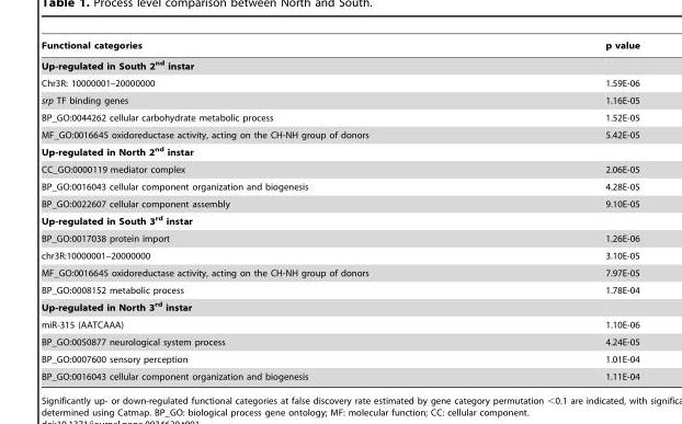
<table><thead><tr><td>Functional categories</td><td>p value</td></tr></thead><tbody><tr><td colspan="2">Up-regulated in South 2<sup>nd</sup> instar</td></tr><tr><td>Chr3R: 10000001–20000000</td><td>1.59E-06</td></tr><tr><td>srp TF binding genes</td><td>1.16E-05</td></tr><tr><td>BP_GO:0044262 cellular carbohydrate metabolic process</td><td>1.52E-05</td></tr><tr><td>MF_GO:0016645 oxidoreductase activity, acting on the CH-NH group of donors</td><td>5.42E-05</td></tr><tr><td colspan="2">Up-regulated in North 2<sup>nd</sup> instar</td></tr><tr><td>CC_GO:0000119 mediator complex</td><td>2.06E-05</td></tr><tr><td>BP_GO:0016043 cellular component organization and biogenesis</td><td>4.28E-05</td></tr><tr><td>BP_GO:0022607 cellular component assembly</td><td>9.10E-05</td></tr><tr><td colspan="2">Up-regulated in South 3<sup>rd</sup> instar</td></tr><tr><td>BP_GO:0017038 protein import</td><td>1.26E-06</td></tr><tr><td>chr3R:10000001–20000000</td><td>3.10E-05</td></tr><tr><td>MF_GO:0016645 oxidoreductase activity, acting on the CH-NH group of donors</td><td>7.97E-05</td></tr><tr><td>BP_GO:0008152 metabolic process</td><td>1.78E-04</td></tr><tr><td colspan="2">Up-regulated in North 3<sup>rd</sup> instar</td></tr><tr><td>miR-315 (AATCAAA)</td><td>1.10E-06</td></tr><tr><td>BP_GO:0050877 neurological system process</td><td>4.24E-05</td></tr><tr><td>BP_GO:0007600 sensory perception</td><td>1.01E-04</td></tr><tr><td>BP_GO:0016043 cellular component organization and biogenesis</td><td>1.11E-04</td></tr></tbody></table>